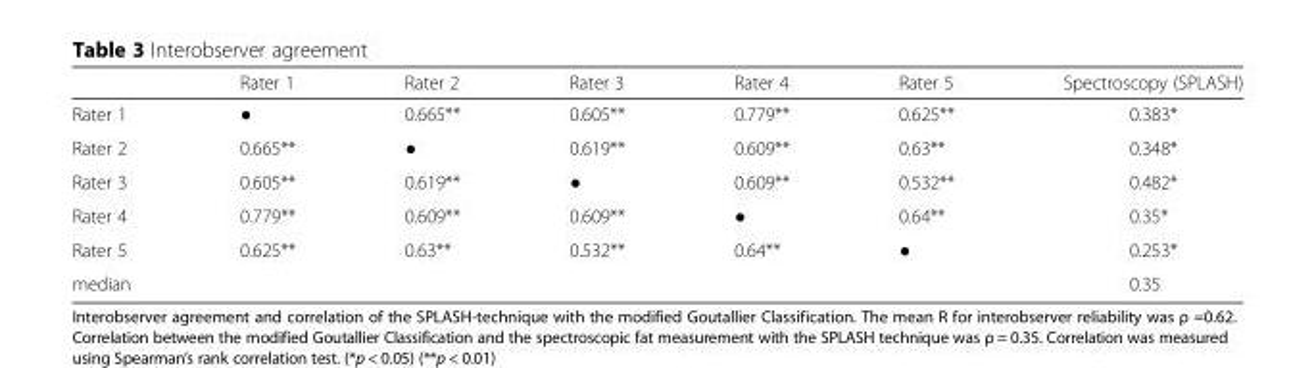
<table><thead><tr><td></td><td>Rater 1</td><td>Rater 2</td><td>Rater 3</td><td>Rater 4</td><td>Rater 5</td><td>Spectroscopy (SPLASH)</td></tr></thead><tbody><tr><td>Rater 1</td><td>●</td><td>0.665**</td><td>0.605**</td><td>0.779**</td><td>0.625**</td><td>0.383*</td></tr><tr><td>Rater 2</td><td>0.665**</td><td>●</td><td>0.619**</td><td>0.609**</td><td>0.63**</td><td>0.348*</td></tr><tr><td>Rater 3</td><td>0.605**</td><td>0.619**</td><td>●</td><td>0.609**</td><td>0.532**</td><td>0.482*</td></tr><tr><td>Rater 4</td><td>0.779**</td><td>0.609**</td><td>0.609**</td><td>●</td><td>0.64**</td><td>0.35*</td></tr><tr><td>Rater 5</td><td>0.625**</td><td>0.63**</td><td>0.532**</td><td>0.64**</td><td>●</td><td>0.253*</td></tr><tr><td>median</td><td></td><td></td><td></td><td></td><td></td><td>0.35</td></tr></tbody></table>